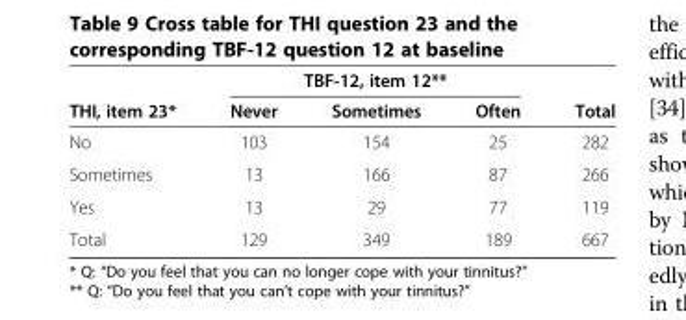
<table><thead><tr><td rowspan="2">THI, item 23*</td><td colspan="3">TBF-12, item 12**</td><td rowspan="2">Total</td></tr><tr><td>Never</td><td>Sometimes</td><td>Often</td></tr></thead><tbody><tr><td>No</td><td>103</td><td>154</td><td>25</td><td>282</td></tr><tr><td>Sometimes</td><td>13</td><td>166</td><td>87</td><td>266</td></tr><tr><td>Yes</td><td>13</td><td>29</td><td>77</td><td>119</td></tr><tr><td>Total</td><td>129</td><td>349</td><td>189</td><td>667</td></tr></tbody></table>